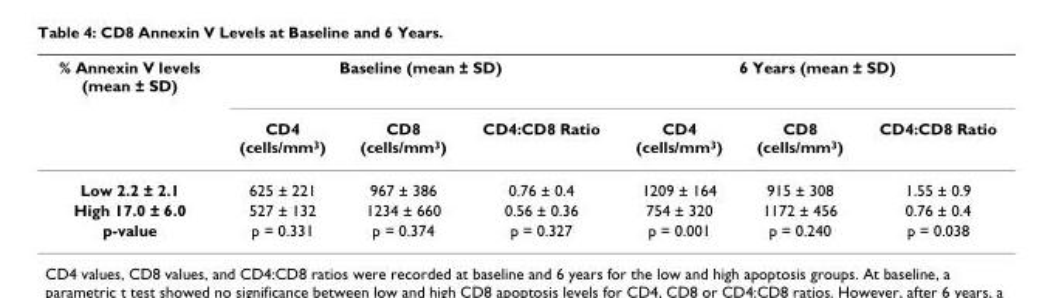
<table><thead><tr><td rowspan="2">% Annexin V levels (mean ± SD)</td><td colspan="3">Baseline (mean ± SD)</td><td colspan="3">6 Years (mean ± SD)</td></tr><tr><td>CD4 (cells/mm<sup>3</sup>)</td><td>CD8 (cells/mm<sup>3</sup>)</td><td>CD4:CD8 Ratio</td><td>CD4 (cells/mm<sup>3</sup>)</td><td>CD8 (cells/mm<sup>3</sup>)</td><td>CD4:CD8 Ratio</td></tr></thead><tbody><tr><td>Low 2.2 ± 2.1</td><td>625 ± 221</td><td>967 ± 386</td><td>0.76 ± 0.4</td><td>1209 ± 164</td><td>915 ± 308</td><td>1.55 ± 0.9</td></tr><tr><td>High 17.0 ± 6.0</td><td>527 ± 132</td><td>1234 ± 660</td><td>0.56 ± 0.36</td><td>754 ± 320</td><td>1172 ± 456</td><td>0.76 ± 0.4</td></tr><tr><td>p-value</td><td>p = 0.331</td><td>p = 0.374</td><td>p = 0.327</td><td>p = 0.001</td><td>p = 0.240</td><td>p = 0.038</td></tr></tbody></table>